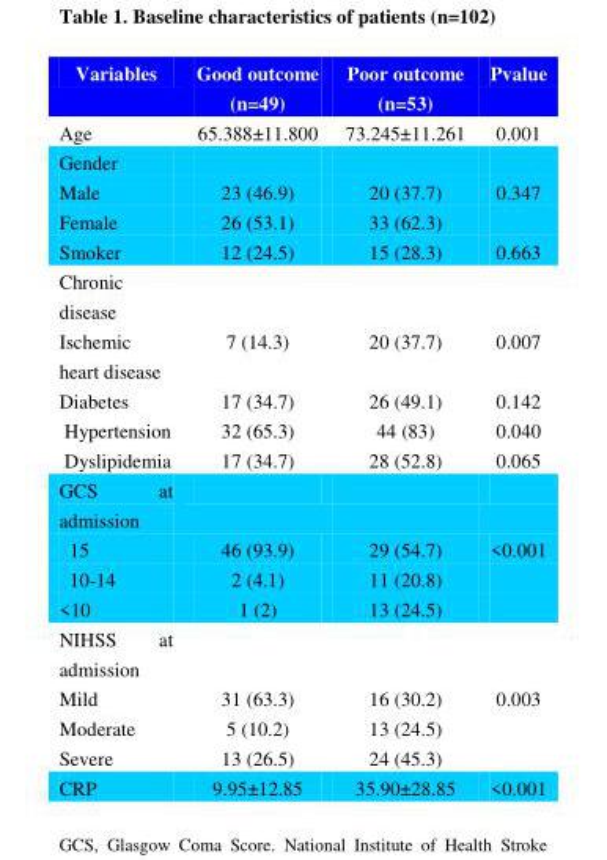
<table><thead><tr><td>Variables</td><td>Good outcome (n=49)</td><td>Poor outcome (n=53)</td><td>Pvalue</td></tr></thead><tbody><tr><td>Age</td><td>65.388±11.800</td><td>73.245±11.261</td><td>0.001</td></tr><tr><td colspan="4">Gender</td></tr><tr><td>Male</td><td>23 (46.9)</td><td>20 (37.7)</td><td>0.347</td></tr><tr><td>Female</td><td>26 (53.1)</td><td>33 (62.3)</td><td></td></tr><tr><td>Smoker</td><td>12 (24.5)</td><td>15 (28.3)</td><td>0.663</td></tr><tr><td colspan="4">Chronic disease</td></tr><tr><td>Ischemic heart disease</td><td>7 (14.3)</td><td>20 (37.7)</td><td>0.007</td></tr><tr><td>Diabetes</td><td>17 (34.7)</td><td>26 (49.1)</td><td>0.142</td></tr><tr><td>Hypertension</td><td>32 (65.3)</td><td>44 (83)</td><td>0.040</td></tr><tr><td>Dyslipidemia</td><td>17 (34.7)</td><td>28 (52.8)</td><td>0.065</td></tr><tr><td colspan="4">GCS at admission</td></tr><tr><td>15</td><td>46 (93.9)</td><td>29 (54.7)</td><td>&lt;0.001</td></tr><tr><td>10-14</td><td>2 (4.1)</td><td>11 (20.8)</td><td></td></tr><tr><td>&lt;10</td><td>1 (2)</td><td>13 (24.5)</td><td></td></tr><tr><td colspan="4">NIHSS at admission</td></tr><tr><td>Mild</td><td>31 (63.3)</td><td>16 (30.2)</td><td>0.003</td></tr><tr><td>Moderate</td><td>5 (10.2)</td><td>13 (24.5)</td><td></td></tr><tr><td>Severe</td><td>13 (26.5)</td><td>24 (45.3)</td><td></td></tr><tr><td>CRP</td><td>9.95±12.85</td><td>35.90±28.85</td><td>&lt;0.001</td></tr></tbody></table>